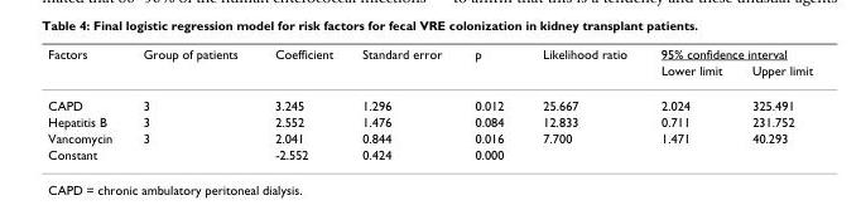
<table><thead><tr><td rowspan="2">Factors</td><td rowspan="2">Group of patients</td><td rowspan="2">Coefficient</td><td rowspan="2">Standard error</td><td rowspan="2">p</td><td rowspan="2">Likelihood ratio</td><td colspan="2">95% confidence interval</td></tr><tr><td>Lower limit</td><td>Upper limit</td></tr></thead><tbody><tr><td>CAPD</td><td>3</td><td>3.245</td><td>1.296</td><td>0.012</td><td>25.667</td><td>2.024</td><td>325.491</td></tr><tr><td>Hepatitis B</td><td>3</td><td>2.552</td><td>1.476</td><td>0.084</td><td>12.833</td><td>0.711</td><td>231.752</td></tr><tr><td>Vancomycin</td><td>3</td><td>2.041</td><td>0.844</td><td>0.016</td><td>7.700</td><td>1.471</td><td>40.293</td></tr><tr><td>Constant</td><td></td><td>-2.552</td><td>0.424</td><td>0.000</td><td></td><td></td><td></td></tr></tbody></table>